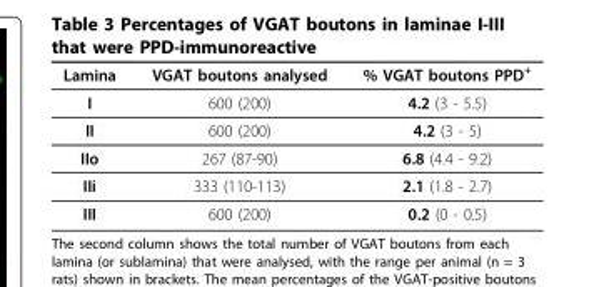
<table><thead><tr><td>Lamina</td><td>VGAT boutons analysed</td><td>% VGAT boutons PPD<sup>+</sup></td></tr></thead><tbody><tr><td>I</td><td>600 (200)</td><td>4.2 (3 - 5.5)</td></tr><tr><td>II</td><td>600 (200)</td><td>4.2 (3 - 5)</td></tr><tr><td>IIo</td><td>267 (87-90)</td><td>6.8 (4.4 - 9.2)</td></tr><tr><td>IIi</td><td>333 (110-113)</td><td>2.1 (1.8 - 2.7)</td></tr><tr><td>III</td><td>600 (200)</td><td>0.2 (0 - 0.5)</td></tr></tbody></table>